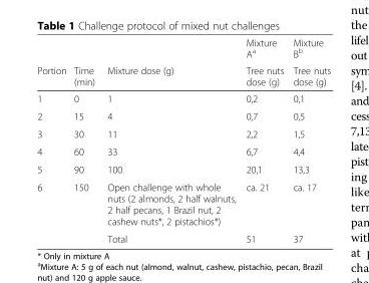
<table><thead><tr><td rowspan="2">Portion</td><td rowspan="2">Time (min)</td><td rowspan="2">Mixture dose (g)</td><td rowspan="2">Mixture A<sup>a</sup> Tree nuts dose (g)</td><td rowspan="2">Mixture B<sup>b</sup> Tree nuts dose (g)</td></tr><tr></tr></thead><tbody><tr><td>1</td><td>0</td><td>1</td><td>0,2</td><td>0,1</td></tr><tr><td>2</td><td>15</td><td>4</td><td>0,7</td><td>0,5</td></tr><tr><td>3</td><td>30</td><td>11</td><td>2,2</td><td>1,5</td></tr><tr><td>4</td><td>60</td><td>33</td><td>6,7</td><td>4,4</td></tr><tr><td>5</td><td>90</td><td>100</td><td>20,1</td><td>13,3</td></tr><tr><td rowspan="2">6</td><td>150</td><td>Open challenge with whole nuts (2 almonds, 2 half walnuts, 2 half pecans, 1 Brazil nut, 2 cashew nuts*, 2 pistachios*)</td><td>ca. 21</td><td>ca. 17</td></tr><tr><td></td><td>Total</td><td>51</td><td>37</td></tr></tbody></table>